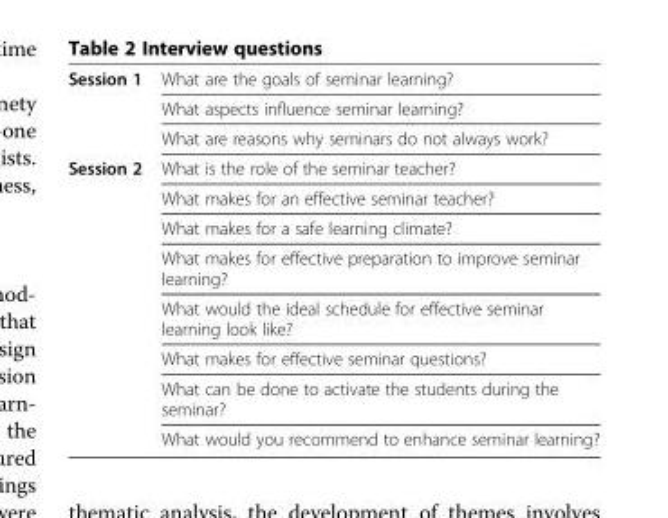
<table><tbody><tr><td rowspan="3">Session 1</td><td>What are the goals of seminar learning?</td></tr><tr><td>What aspects influence seminar learning?</td></tr><tr><td>What are reasons why seminars do not always work?</td></tr><tr><td rowspan="8">Session 2</td><td>What is the role of the seminar teacher?</td></tr><tr><td>What makes for an effective seminar teacher?</td></tr><tr><td>What makes for a safe learning climate?</td></tr><tr><td>What makes for effective preparation to improve seminar learning?</td></tr><tr><td>What would the ideal schedule for effective seminar learning look like?</td></tr><tr><td>What makes for effective seminar questions?</td></tr><tr><td>What can be done to activate the students during the seminar?</td></tr><tr><td>What would you recommend to enhance seminar learning?</td></tr></tbody></table>